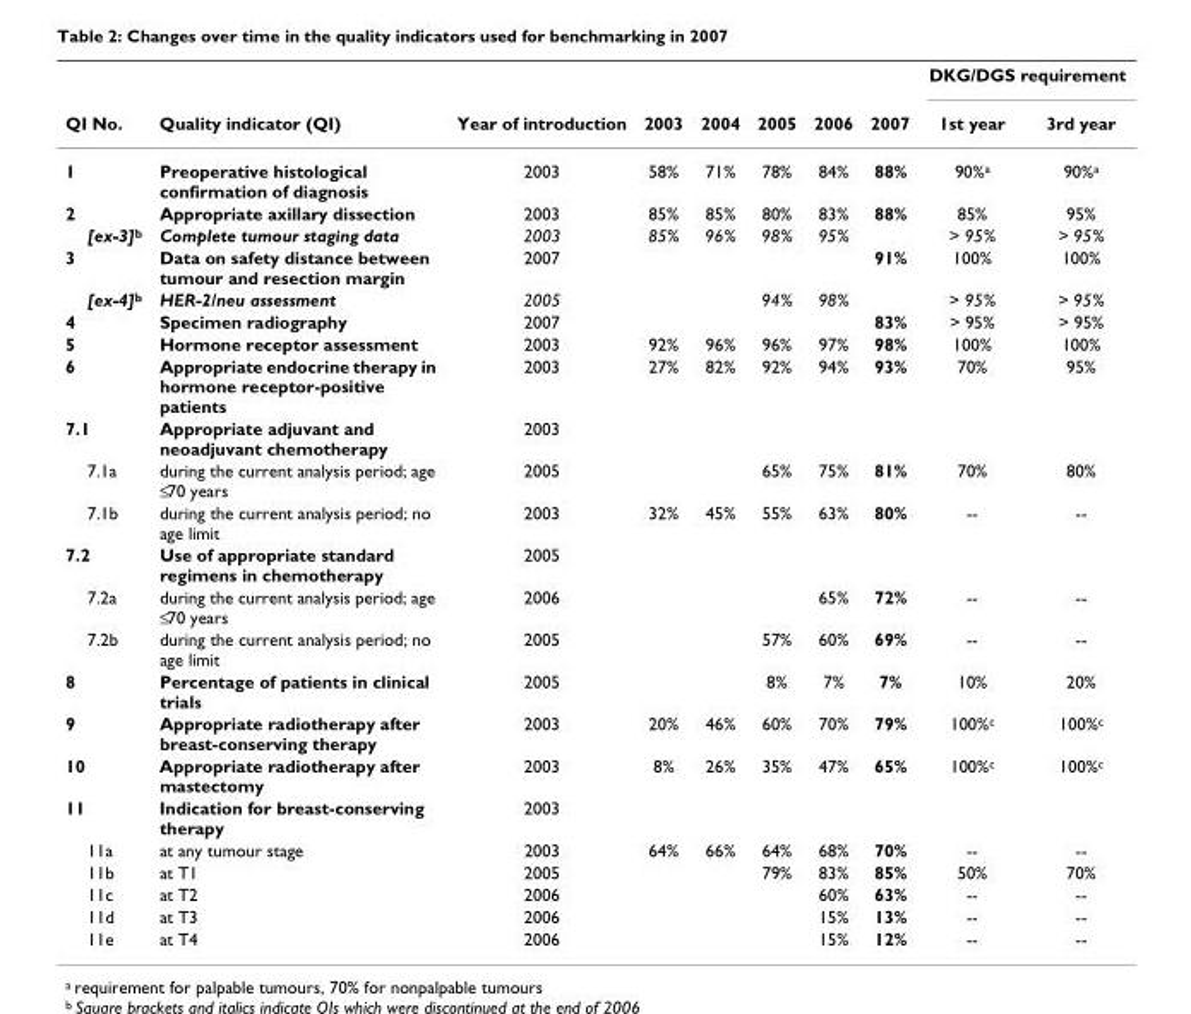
<table><thead><tr><td rowspan="2">QI No.</td><td rowspan="2">Quality indicator (QI)</td><td rowspan="2">Year of introduction</td><td rowspan="2">2003</td><td rowspan="2">2004</td><td rowspan="2">2005</td><td rowspan="2">2006</td><td rowspan="2">2007</td><td colspan="2">DKG/DGS requirement</td></tr><tr><td>1st year</td><td>3rd year</td></tr></thead><tbody><tr><td>1</td><td>Preoperative histological confirmation of diagnosis</td><td>2003</td><td>58%</td><td>71%</td><td>78%</td><td>84%</td><td>88%</td><td>90%<sup>a</sup></td><td>90%<sup>a</sup></td></tr><tr><td>2</td><td>Appropriate axillary dissection</td><td>2003</td><td>85%</td><td>85%</td><td>80%</td><td>83%</td><td>88%</td><td>85%</td><td>95%</td></tr><tr><td>[ex-3]<sup>b</sup></td><td>Complete tumour staging data</td><td>2003</td><td>85%</td><td>96%</td><td>98%</td><td>95%</td><td></td><td>&gt; 95%</td><td>&gt; 95%</td></tr><tr><td>3</td><td>Data on safety distance between tumour and resection margin</td><td>2007</td><td></td><td></td><td></td><td></td><td>91%</td><td>100%</td><td>100%</td></tr><tr><td>[ex-4]<sup>b</sup></td><td>HER-2/neu assessment</td><td>2005</td><td></td><td></td><td>94%</td><td>98%</td><td></td><td>&gt; 95%</td><td>&gt; 95%</td></tr><tr><td>4</td><td>Specimen radiography</td><td>2007</td><td></td><td></td><td></td><td></td><td>83%</td><td>&gt; 95%</td><td>&gt; 95%</td></tr><tr><td>5</td><td>Hormone receptor assessment</td><td>2003</td><td>92%</td><td>96%</td><td>96%</td><td>97%</td><td>98%</td><td>100%</td><td>100%</td></tr><tr><td>6</td><td>Appropriate endocrine therapy in hormone receptor-positive patients</td><td>2003</td><td>27%</td><td>82%</td><td>92%</td><td>94%</td><td>93%</td><td>70%</td><td>95%</td></tr><tr><td>7.1</td><td>Appropriate adjuvant and neoadjuvant chemotherapy</td><td>2003</td><td></td><td></td><td></td><td></td><td></td><td></td><td></td></tr><tr><td>7.1a</td><td>during the current analysis period; age ≤ 70 years</td><td>2005</td><td></td><td></td><td>65%</td><td>75%</td><td>81%</td><td>70%</td><td>80%</td></tr><tr><td>7.1b</td><td>during the current analysis period; no age limit</td><td>2003</td><td>32%</td><td>45%</td><td>55%</td><td>63%</td><td>80%</td><td>--</td><td>--</td></tr><tr><td>7.2</td><td>Use of appropriate standard regimens in chemotherapy</td><td>2005</td><td></td><td></td><td></td><td></td><td></td><td></td><td></td></tr><tr><td>7.2a</td><td>during the current analysis period; age ≤ 70 years</td><td>2006</td><td></td><td></td><td></td><td>65%</td><td>72%</td><td>--</td><td>--</td></tr><tr><td>7.2b</td><td>during the current analysis period; no age limit</td><td>2005</td><td></td><td></td><td>57%</td><td>60%</td><td>69%</td><td>--</td><td>--</td></tr><tr><td>8</td><td>Percentage of patients in clinical trials</td><td>2005</td><td></td><td></td><td>8%</td><td>7%</td><td>7%</td><td>10%</td><td>20%</td></tr><tr><td>9</td><td>Appropriate radiotherapy after breast-conserving therapy</td><td>2003</td><td>20%</td><td>46%</td><td>60%</td><td>70%</td><td>79%</td><td>100%<sup>c</sup></td><td>100%<sup>c</sup></td></tr><tr><td>10</td><td>Appropriate radiotherapy after mastectomy</td><td>2003</td><td>8%</td><td>26%</td><td>35%</td><td>47%</td><td>65%</td><td>100%<sup>c</sup></td><td>100%<sup>c</sup></td></tr><tr><td>11</td><td>Indication for breast-conserving therapy</td><td>2003</td><td></td><td></td><td></td><td></td><td></td><td></td><td></td></tr><tr><td>11a</td><td>at any tumour stage</td><td>2003</td><td>64%</td><td>66%</td><td>64%</td><td>68%</td><td>70%</td><td>--</td><td>--</td></tr><tr><td>11b</td><td>at T1</td><td>2005</td><td></td><td></td><td>79%</td><td>83%</td><td>85%</td><td>50%</td><td>70%</td></tr><tr><td>11c</td><td>at T2</td><td>2006</td><td></td><td></td><td></td><td>60%</td><td>63%</td><td>--</td><td>--</td></tr><tr><td>11d</td><td>at T3</td><td>2006</td><td></td><td></td><td></td><td>15%</td><td>13%</td><td>--</td><td>--</td></tr><tr><td>11e</td><td>at T4</td><td>2006</td><td></td><td></td><td></td><td>15%</td><td>12%</td><td>--</td><td>--</td></tr></tbody></table>